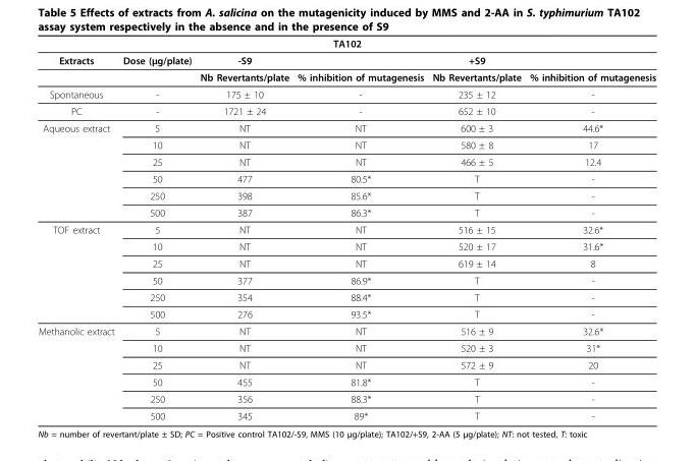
<table><thead><tr><td colspan="6">TA102</td></tr><tr><td rowspan="2">Extracts</td><td rowspan="2">Dose (μg/plate)</td><td rowspan="2">-S9 Nb Revertants/plate</td><td colspan="3">+S9</td></tr><tr><td>% inhibition of mutagenesis</td><td>Nb Revertants/plate</td><td>% inhibition of mutagenesis</td></tr></thead><tbody><tr><td>Spontaneous</td><td>-</td><td>175 ± 10</td><td>-</td><td>235 ± 12</td><td>-</td></tr><tr><td>PC</td><td>-</td><td>1721 ± 24</td><td>-</td><td>652 ± 10</td><td>-</td></tr><tr><td rowspan="6">Aqueous extract</td><td>5</td><td>NT</td><td>NT</td><td>600 ± 3</td><td>44.6*</td></tr><tr><td>10</td><td>NT</td><td>NT</td><td>580 ± 8</td><td>17</td></tr><tr><td>25</td><td>NT</td><td>NT</td><td>466 ± 5</td><td>12.4</td></tr><tr><td>50</td><td>477</td><td>80.5*</td><td>T</td><td>-</td></tr><tr><td>250</td><td>398</td><td>85.6*</td><td>T</td><td>-</td></tr><tr><td>500</td><td>387</td><td>86.3*</td><td>T</td><td>-</td></tr><tr><td rowspan="6">TOF extract</td><td>5</td><td>NT</td><td>NT</td><td>516 ± 15</td><td>32.6*</td></tr><tr><td>10</td><td>NT</td><td>NT</td><td>520 ± 17</td><td>31.6*</td></tr><tr><td>25</td><td>NT</td><td>NT</td><td>619 ± 14</td><td>8</td></tr><tr><td>50</td><td>377</td><td>86.9*</td><td>T</td><td>-</td></tr><tr><td>250</td><td>354</td><td>88.4*</td><td>T</td><td>-</td></tr><tr><td>500</td><td>276</td><td>93.5*</td><td>T</td><td>-</td></tr><tr><td rowspan="6">Methanolic extract</td><td>5</td><td>NT</td><td>NT</td><td>516 ± 9</td><td>32.6*</td></tr><tr><td>10</td><td>NT</td><td>NT</td><td>520 ± 3</td><td>31*</td></tr><tr><td>25</td><td>NT</td><td>NT</td><td>572 ± 9</td><td>20</td></tr><tr><td>50</td><td>455</td><td>81.8*</td><td>T</td><td>-</td></tr><tr><td>250</td><td>356</td><td>88.3*</td><td>T</td><td>-</td></tr><tr><td>500</td><td>345</td><td>89*</td><td>T</td><td>-</td></tr></tbody></table>